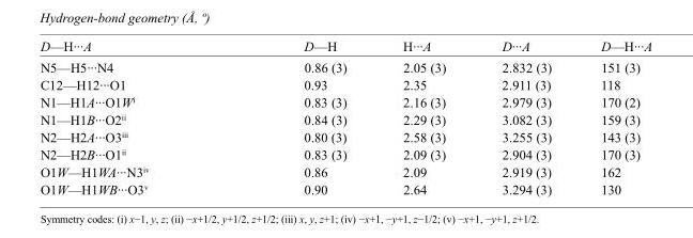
<table><tbody><tr><td>D—H···A</td><td>D—H</td><td>H···A</td><td>D···A</td><td>D—H···A</td></tr><tr><td>N5—H5···N4</td><td>0.86 (3)</td><td>2.05 (3)</td><td>2.832 (3)</td><td>151 (3)</td></tr><tr><td>C12—H12···O1</td><td>0.93</td><td>2.35</td><td>2.911 (3)</td><td>118</td></tr><tr><td>N1—H1A···O1W<sup>i</sup></td><td>0.83 (3)</td><td>2.16 (3)</td><td>2.979 (3)</td><td>170 (2)</td></tr><tr><td>N1—H1B···O2<sup>ii</sup></td><td>0.84 (3)</td><td>2.29 (3)</td><td>3.082 (3)</td><td>159 (3)</td></tr><tr><td>N2—H2A···O3<sup>iii</sup></td><td>0.80 (3)</td><td>2.58 (3)</td><td>3.255 (3)</td><td>143 (3)</td></tr><tr><td>N2—H2B···O1<sup>ii</sup></td><td>0.83 (3)</td><td>2.09 (3)</td><td>2.904 (3)</td><td>170 (3)</td></tr><tr><td>O1W—H1WA···N3<sup>iv</sup></td><td>0.86</td><td>2.09</td><td>2.919 (3)</td><td>162</td></tr><tr><td>O1W—H1WB···O3<sup>v</sup></td><td>0.90</td><td>2.64</td><td>3.294 (3)</td><td>130</td></tr></tbody></table>